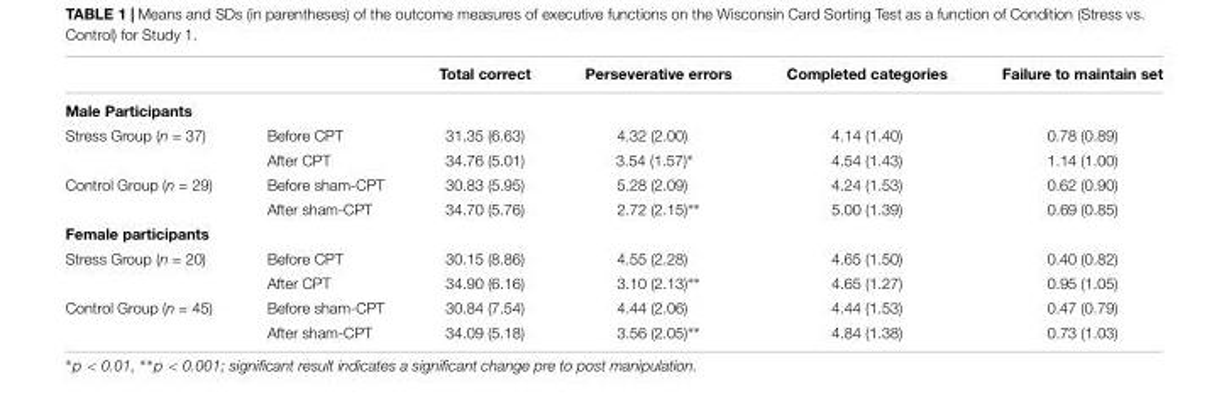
<table><thead><tr><td></td><td></td><td>Total correct</td><td>Perseverative errors</td><td>Completed categories</td><td>Failure to maintain set</td></tr></thead><tbody><tr><td colspan="6">Male Participants</td></tr><tr><td rowspan="2">Stress Group (n = 37)</td><td>Before CPT</td><td>31.35 (6.63)</td><td>4.32 (2.00)</td><td>4.14 (1.40)</td><td>0.78 (0.89)</td></tr><tr><td>After CPT</td><td>34.76 (5.01)</td><td>3.54 (1.57)∗</td><td>4.54 (1.43)</td><td>1.14 (1.00)</td></tr><tr><td rowspan="2">Control Group (n = 29)</td><td>Before sham-CPT</td><td>30.83 (5.95)</td><td>5.28 (2.09)</td><td>4.24 (1.53)</td><td>0.62 (0.90)</td></tr><tr><td>After sham-CPT</td><td>34.70 (5.76)</td><td>2.72 (2.15)∗∗</td><td>5.00 (1.39)</td><td>0.69 (0.85)</td></tr><tr><td colspan="6">Female participants</td></tr><tr><td rowspan="2">Stress Group (n = 20)</td><td>Before CPT</td><td>30.15 (8.86)</td><td>4.55 (2.28)</td><td>4.65 (1.50)</td><td>0.40 (0.82)</td></tr><tr><td>After CPT</td><td>34.90 (6.16)</td><td>3.10 (2.13)∗∗</td><td>4.65 (1.27)</td><td>0.95 (1.05)</td></tr><tr><td rowspan="2">Control Group (n = 45)</td><td>Before sham-CPT</td><td>30.84 (7.54)</td><td>4.44 (2.06)</td><td>4.44 (1.53)</td><td>0.47 (0.79)</td></tr><tr><td>After sham-CPT</td><td>34.09 (5.18)</td><td>3.56 (2.05)∗∗</td><td>4.84 (1.38)</td><td>0.73 (1.03)</td></tr></tbody></table>